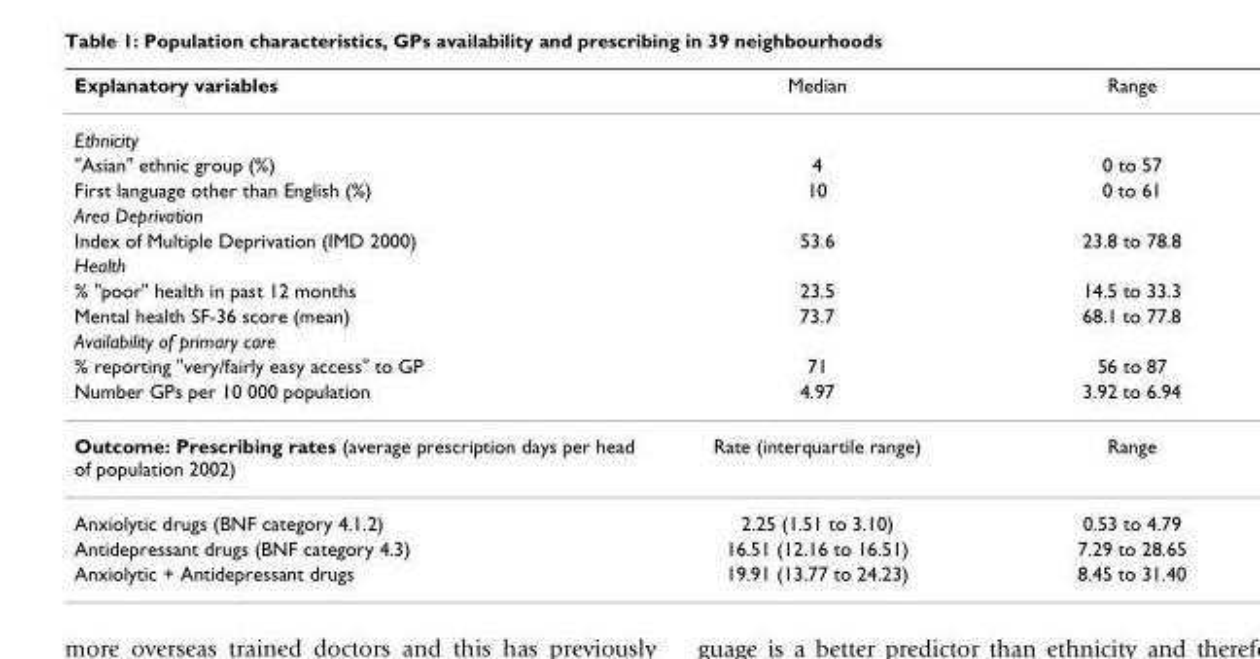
<table><thead><tr><td>Explanatory variables</td><td>Median</td><td>Range</td></tr></thead><tbody><tr><td colspan="3">Ethnicity</td></tr><tr><td>&quot;Asian&quot; ethnic group (%)</td><td>4</td><td>0 to 57</td></tr><tr><td>First language other than English (%)</td><td>10</td><td>0 to 61</td></tr><tr><td colspan="3">Area Deprivation</td></tr><tr><td>Index of Multiple Deprivation (IMD 2000)</td><td>53.6</td><td>23.8 to 78.8</td></tr><tr><td colspan="3">Health</td></tr><tr><td>% &quot;poor&quot; health in past 12 months</td><td>23.5</td><td>14.5 to 33.3</td></tr><tr><td>Mental health SF-36 score (mean)</td><td>73.7</td><td>68.1 to 77.8</td></tr><tr><td colspan="3">Availability of primary care</td></tr><tr><td>% reporting &quot;very/fairly easy access&quot; to GP</td><td>71</td><td>56 to 87</td></tr><tr><td>Number GPs per 10 000 population</td><td>4.97</td><td>3.92 to 6.94</td></tr><tr><td>Outcome: Prescribing rates (average prescription days per head of population 2002)</td><td>Rate (interquartile range)</td><td>Range</td></tr><tr><td>Anxiolytic drugs (BNF category 4.1.2)</td><td>2.25 (1.51 to 3.10)</td><td>0.53 to 4.79</td></tr><tr><td>Antidepressant drugs (BNF category 4.3)</td><td>16.51 (12.16 to 16.51)</td><td>7.29 to 28.65</td></tr><tr><td>Anxiolytic + Antidepressant drugs</td><td>19.91 (13.77 to 24.23)</td><td>8.45 to 31.40</td></tr></tbody></table>